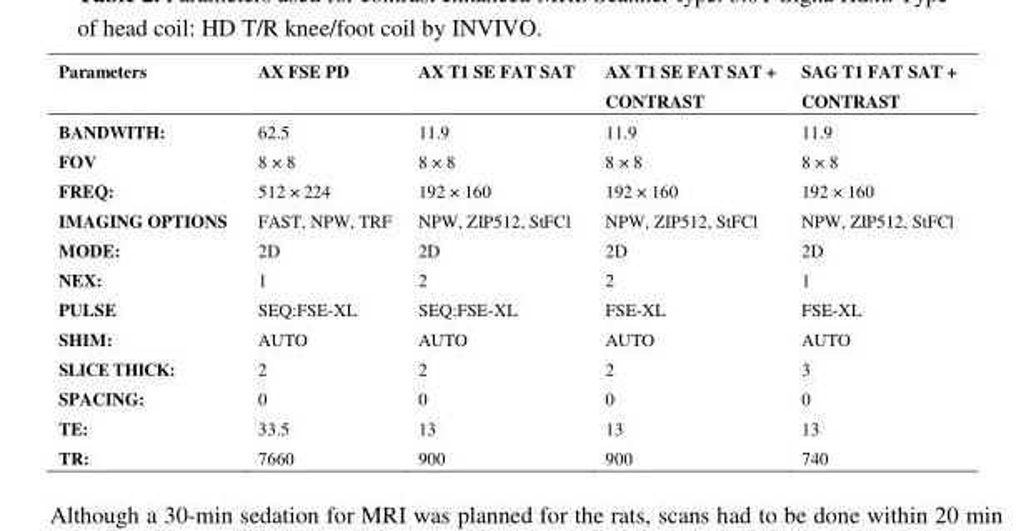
<table><thead><tr><td>Parameters</td><td>AX FSE PD</td><td>AX T1 SE FAT SAT</td><td>AX T1 SE FAT SAT + CONTRAST</td><td>SAG T1 FAT SAT + CONTRAST</td></tr></thead><tbody><tr><td>BANDWITH:</td><td>62.5</td><td>11.9</td><td>11.9</td><td>11.9</td></tr><tr><td>FOV</td><td>8 × 8</td><td>8 × 8</td><td>8 × 8</td><td>8 × 8</td></tr><tr><td>FREQ:</td><td>512 × 224</td><td>192 × 160</td><td>192 × 160</td><td>192 × 160</td></tr><tr><td>IMAGING OPTIONS</td><td>FAST, NPW, TRF</td><td>NPW, ZIP512, StFCl</td><td>NPW, ZIP512, StFCl</td><td>NPW, ZIP512, StFCl</td></tr><tr><td>MODE:</td><td>2D</td><td>2D</td><td>2D</td><td>2D</td></tr><tr><td>NEX:</td><td>1</td><td>2</td><td>2</td><td>1</td></tr><tr><td>PULSE</td><td>SEQ:FSE-XL</td><td>SEQ:FSE-XL</td><td>FSE-XL</td><td>FSE-XL</td></tr><tr><td>SHIM:</td><td>AUTO</td><td>AUTO</td><td>AUTO</td><td>AUTO</td></tr><tr><td>SLICE THICK:</td><td>2</td><td>2</td><td>2</td><td>3</td></tr><tr><td>SPACING:</td><td>0</td><td>0</td><td>0</td><td>0</td></tr><tr><td>TE:</td><td>33.5</td><td>13</td><td>13</td><td>13</td></tr><tr><td>TR:</td><td>7660</td><td>900</td><td>900</td><td>740</td></tr></tbody></table>